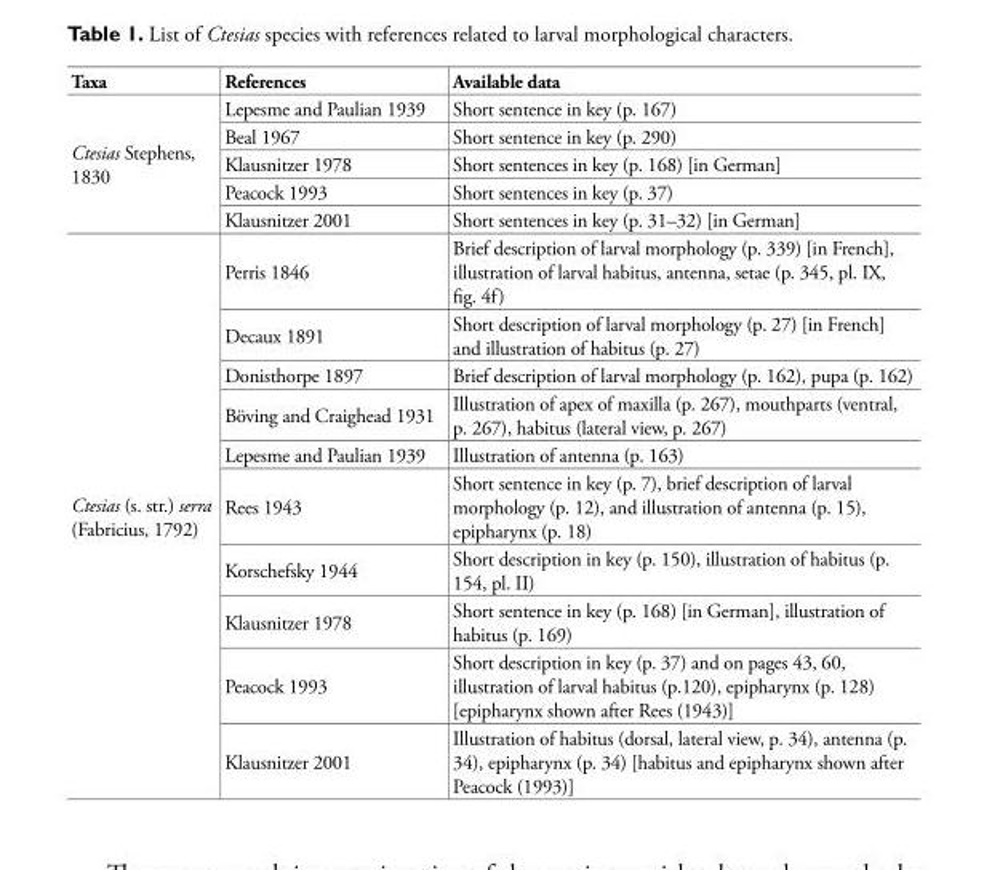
<table><thead><tr><td>Taxa</td><td>References</td><td>Available data</td></tr></thead><tbody><tr><td rowspan="5">Ctesias Stephens, 1830</td><td>Lepesme and Paulian 1939</td><td>Short sentence in key (p. 167)</td></tr><tr><td>Beal 1967</td><td>Short sentence in key (p. 290)</td></tr><tr><td>Klausnitzer 1978</td><td>Short sentences in key (p. 168) [in German]</td></tr><tr><td>Peacock 1993</td><td>Short sentences in key (p. 37)</td></tr><tr><td>Klausnitzer 2001</td><td>Short sentences in key (p. 31–32) [in German]</td></tr><tr><td rowspan="10">Ctesias (s. str.) serra (Fabricius, 1792)</td><td>Perris 1846</td><td>Brief description of larval morphology (p. 339) [in French], illustration of larval habitus, antenna, setae (p. 345, pl. IX, fig. 4f)</td></tr><tr><td>Decaux 1891</td><td>Short description of larval morphology (p. 27) [in French] and illustration of habitus (p. 27)</td></tr><tr><td>Donisthorpe 1897</td><td>Brief description of larval morphology (p. 162), pupa (p. 162)</td></tr><tr><td>Böving and Craighead 1931</td><td>Illustration of apex of maxilla (p. 267), mouthparts (ventral, p. 267), habitus (lateral view, p. 267)</td></tr><tr><td>Lepesme and Paulian 1939</td><td>Illustration of antenna (p. 163)</td></tr><tr><td>Rees 1943</td><td>Short sentence in key (p. 7), brief description of larval morphology (p. 12), and illustration of antenna (p. 15), epipharynx (p. 18)</td></tr><tr><td>Korschefsky 1944</td><td>Short description in key (p. 150), illustration of habitus (p. 154, pl. II)</td></tr><tr><td>Klausnitzer 1978</td><td>Short sentence in key (p. 168) [in German], illustration of habitus (p. 169)</td></tr><tr><td>Peacock 1993</td><td>Short description in key (p. 37) and on pages 43, 60, illustration of larval habitus (p.120), epipharynx (p. 128) [epipharynx shown after Rees (1943)]</td></tr><tr><td>Klausnitzer 2001</td><td>Illustration of habitus (dorsal, lateral view, p. 34), antenna (p. 34), epipharynx (p. 34) [habitus and epipharynx shown after Peacock (1993)]</td></tr></tbody></table>